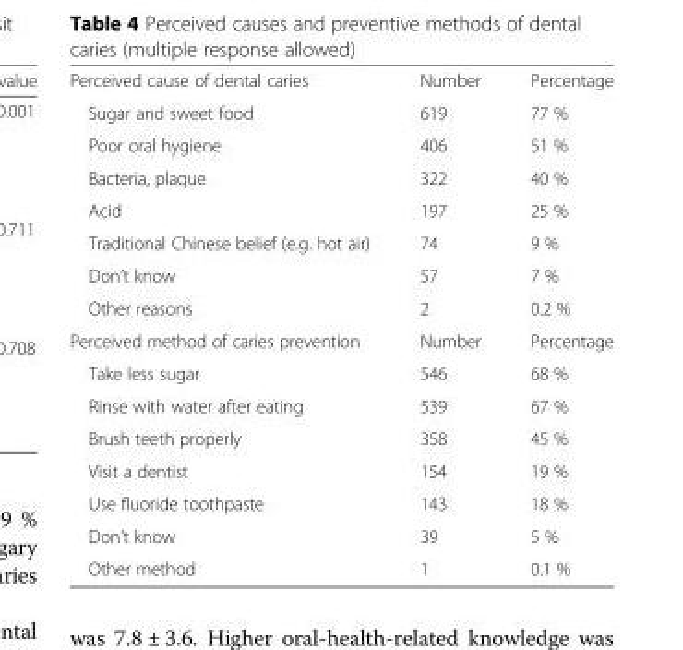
<table><tbody><tr><td>Perceived cause of dental caries</td><td>Number</td><td>Percentage</td></tr><tr><td>Sugar and sweet food</td><td>619</td><td>77 %</td></tr><tr><td>Poor oral hygiene</td><td>406</td><td>51 %</td></tr><tr><td>Bacteria, plaque</td><td>322</td><td>40 %</td></tr><tr><td>Acid</td><td>197</td><td>25 %</td></tr><tr><td>Traditional Chinese belief (e.g. hot air)</td><td>74</td><td>9 %</td></tr><tr><td>Don’t know</td><td>57</td><td>7 %</td></tr><tr><td>Other reasons</td><td>2</td><td>0.2 %</td></tr><tr><td>Perceived method of caries prevention</td><td>Number</td><td>Percentage</td></tr><tr><td>Take less sugar</td><td>546</td><td>68 %</td></tr><tr><td>Rinse with water after eating</td><td>539</td><td>67 %</td></tr><tr><td>Brush teeth properly</td><td>358</td><td>45 %</td></tr><tr><td>Visit a dentist</td><td>154</td><td>19 %</td></tr><tr><td>Use fluoride toothpaste</td><td>143</td><td>18 %</td></tr><tr><td>Don’t know</td><td>39</td><td>5 %</td></tr><tr><td>Other method</td><td>1</td><td>0.1 %</td></tr></tbody></table>